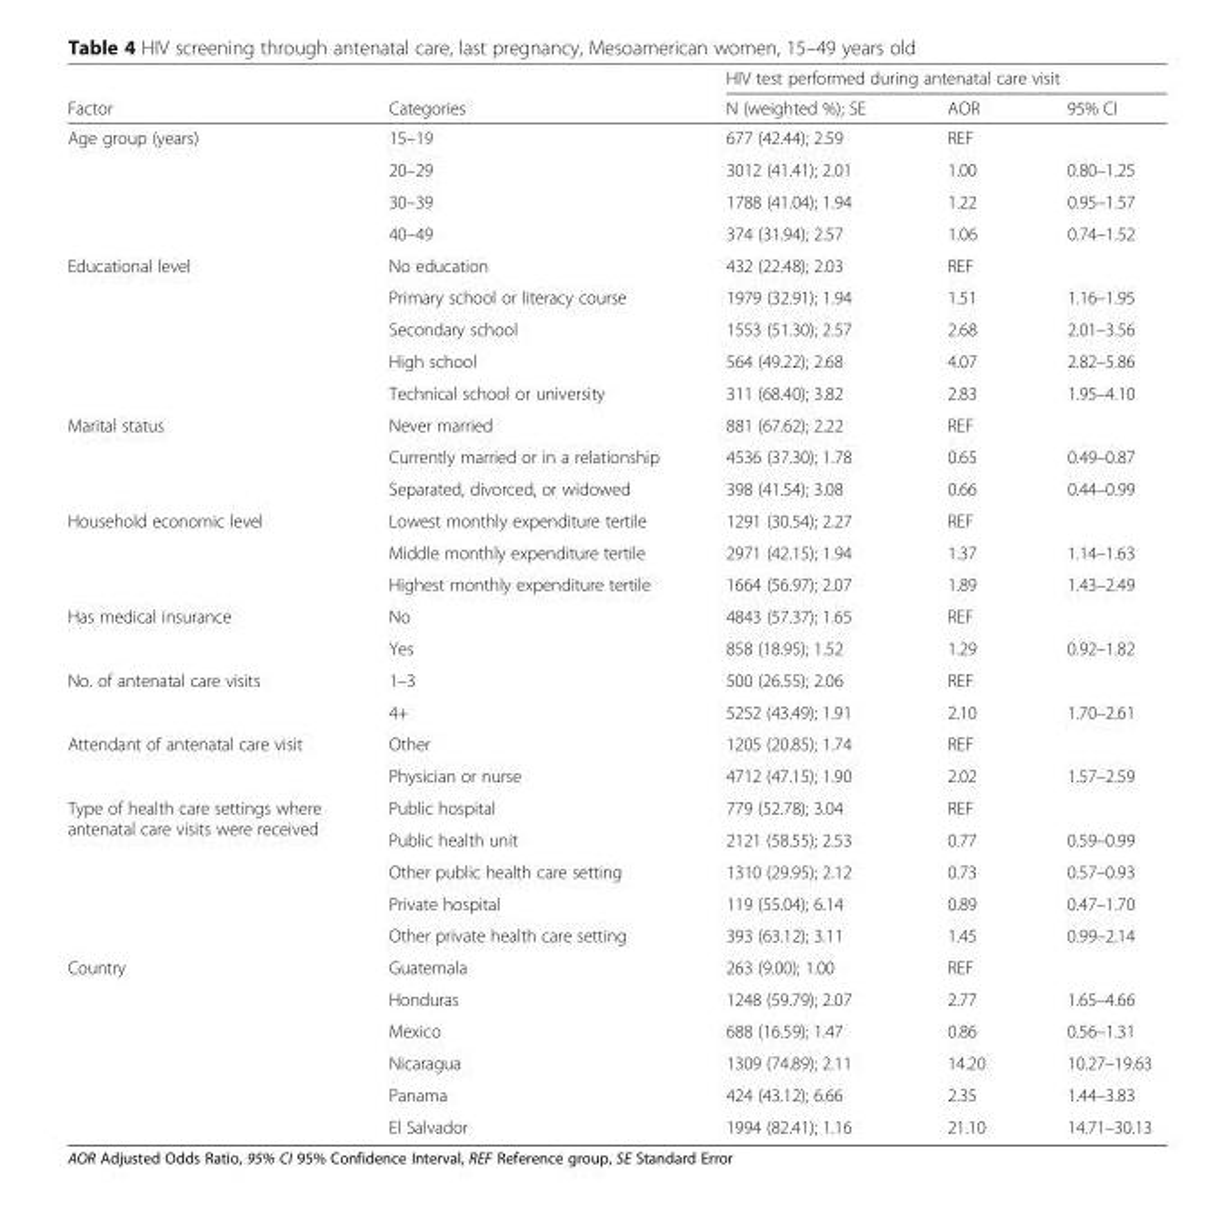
<table><thead><tr><td rowspan="2">Factor</td><td rowspan="2">Categories</td><td colspan="3">HIV test performed during antenatal care visit</td></tr><tr><td>N (weighted %); SE</td><td>AOR</td><td>95% CI</td></tr></thead><tbody><tr><td rowspan="4">Age group (years)</td><td>15–19</td><td>677 (42.44); 2.59</td><td>REF</td><td></td></tr><tr><td>20–29</td><td>3012 (41.41); 2.01</td><td>1.00</td><td>0.80–1.25</td></tr><tr><td>30–39</td><td>1788 (41.04); 1.94</td><td>1.22</td><td>0.95–1.57</td></tr><tr><td>40–49</td><td>374 (31.94); 2.57</td><td>1.06</td><td>0.74–1.52</td></tr><tr><td rowspan="5">Educational level</td><td>No education</td><td>432 (22.48); 2.03</td><td>REF</td><td></td></tr><tr><td>Primary school or literacy course</td><td>1979 (32.91); 1.94</td><td>1.51</td><td>1.16–1.95</td></tr><tr><td>Secondary school</td><td>1553 (51.30); 2.57</td><td>2.68</td><td>2.01–3.56</td></tr><tr><td>High school</td><td>564 (49.22); 2.68</td><td>4.07</td><td>2.82–5.86</td></tr><tr><td>Technical school or university</td><td>311 (68.40); 3.82</td><td>2.83</td><td>1.95–4.10</td></tr><tr><td rowspan="3">Marital status</td><td>Never married</td><td>881 (67.62); 2.22</td><td>REF</td><td></td></tr><tr><td>Currently married or in a relationship</td><td>4536 (37.30); 1.78</td><td>0.65</td><td>0.49–0.87</td></tr><tr><td>Separated, divorced, or widowed</td><td>398 (41.54); 3.08</td><td>0.66</td><td>0.44–0.99</td></tr><tr><td rowspan="3">Household economic level</td><td>Lowest monthly expenditure tertile</td><td>1291 (30.54); 2.27</td><td>REF</td><td></td></tr><tr><td>Middle monthly expenditure tertile</td><td>2971 (42.15); 1.94</td><td>1.37</td><td>1.14–1.63</td></tr><tr><td>Highest monthly expenditure tertile</td><td>1664 (56.97); 2.07</td><td>1.89</td><td>1.43–2.49</td></tr><tr><td rowspan="2">Has medical insurance</td><td>No</td><td>4843 (57.37); 1.65</td><td>REF</td><td></td></tr><tr><td>Yes</td><td>858 (18.95); 1.52</td><td>1.29</td><td>0.92–1.82</td></tr><tr><td rowspan="2">No. of antenatal care visits</td><td>1–3</td><td>500 (26.55); 2.06</td><td>REF</td><td></td></tr><tr><td>4+</td><td>5252 (43.49); 1.91</td><td>2.10</td><td>1.70–2.61</td></tr><tr><td rowspan="2">Attendant of antenatal care visit</td><td>Other</td><td>1205 (20.85); 1.74</td><td>REF</td><td></td></tr><tr><td>Physician or nurse</td><td>4712 (47.15); 1.90</td><td>2.02</td><td>1.57–2.59</td></tr><tr><td rowspan="5">Type of health care settings where antenatal care visits were received</td><td>Public hospital</td><td>779 (52.78); 3.04</td><td>REF</td><td></td></tr><tr><td>Public health unit</td><td>2121 (58.55); 2.53</td><td>0.77</td><td>0.59–0.99</td></tr><tr><td>Other public health care setting</td><td>1310 (29.95); 2.12</td><td>0.73</td><td>0.57–0.93</td></tr><tr><td>Private hospital</td><td>119 (55.04); 6.14</td><td>0.89</td><td>0.47–1.70</td></tr><tr><td>Other private health care setting</td><td>393 (63.12); 3.11</td><td>1.45</td><td>0.99–2.14</td></tr><tr><td rowspan="6">Country</td><td>Guatemala</td><td>263 (9.00); 1.00</td><td>REF</td><td></td></tr><tr><td>Honduras</td><td>1248 (59.79); 2.07</td><td>2.77</td><td>1.65–4.66</td></tr><tr><td>Mexico</td><td>688 (16.59); 1.47</td><td>0.86</td><td>0.56–1.31</td></tr><tr><td>Nicaragua</td><td>1309 (74.89); 2.11</td><td>14.20</td><td>10.27–19.63</td></tr><tr><td>Panama</td><td>424 (43.12); 6.66</td><td>2.35</td><td>1.44–3.83</td></tr><tr><td>El Salvador</td><td>1994 (82.41); 1.16</td><td>21.10</td><td>14.71–30.13</td></tr></tbody></table>